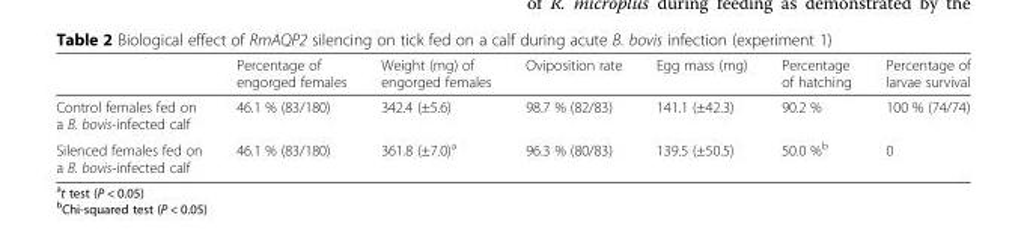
<table><thead><tr><td></td><td>Percentage of engorged females</td><td>Weight (mg) of engorged females</td><td>Oviposition rate</td><td>Egg mass (mg)</td><td>Percentage of hatching</td><td>Percentage of larvae survival</td></tr></thead><tbody><tr><td>Control females fed on a B. bovis-infected calf</td><td>46.1 % (83/180)</td><td>342.4 (±5.6)</td><td>98.7 % (82/83)</td><td>141.1 (±42.3)</td><td>90.2 %</td><td>100 % (74/74)</td></tr><tr><td>Silenced females fed on a B. bovis-infected calf</td><td>46.1 % (83/180)</td><td>361.8 (±7.0)<sup>a</sup></td><td>96.3 % (80/83)</td><td>139.5 (±50.5)</td><td>50.0 %<sup>b</sup></td><td>0</td></tr></tbody></table>